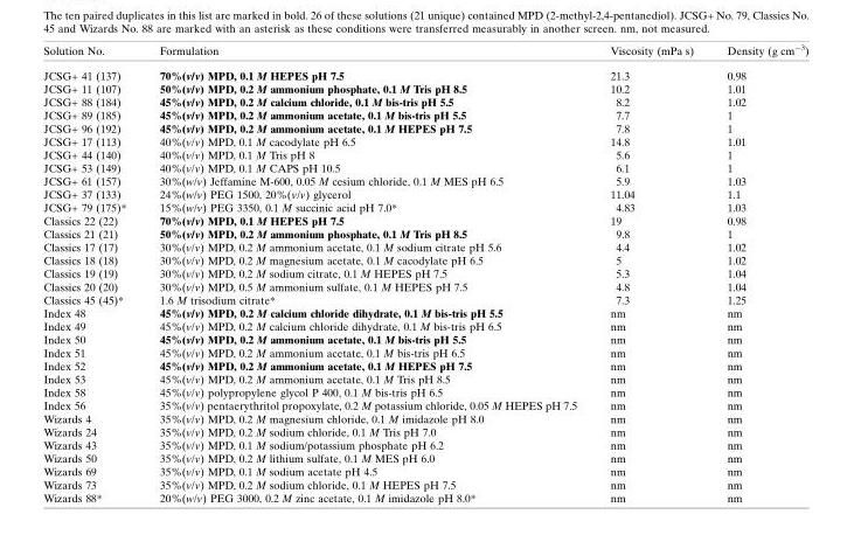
<table><thead><tr><td>Solution No.</td><td>Formulation</td><td>Viscosity (mPa s)</td><td>Density (g cm<sup>−3</sup>)</td></tr></thead><tbody><tr><td>JCSG+ 41 (137)</td><td>70%(v/v) MPD, 0.1 M HEPES pH 7.5</td><td>21.3</td><td>0.98</td></tr><tr><td>JCSG+ 11 (107)</td><td>50%(v/v) MPD, 0.2 M ammonium phosphate, 0.1 M Tris pH 8.5</td><td>10.2</td><td>1.01</td></tr><tr><td>JCSG+ 88 (184)</td><td>45%(v/v) MPD, 0.2 M calcium chloride, 0.1 M bis-tris pH 5.5</td><td>8.2</td><td>1.02</td></tr><tr><td>JCSG+ 89 (185)</td><td>45%(v/v) MPD, 0.2 M ammonium acetate, 0.1 M bis-tris pH 5.5</td><td>7.7</td><td>1</td></tr><tr><td>JCSG+ 96 (192)</td><td>45%(v/v) MPD, 0.2 M ammonium acetate, 0.1 M HEPES pH 7.5</td><td>7.8</td><td>1</td></tr><tr><td>JCSG+ 17 (113)</td><td>40%(v/v) MPD, 0.1 M cacodylate pH 6.5</td><td>14.8</td><td>1.01</td></tr><tr><td>JCSG+ 44 (140)</td><td>40%(v/v) MPD, 0.1 M Tris pH 8</td><td>5.6</td><td>1</td></tr><tr><td>JCSG+ 53 (149)</td><td>40%(v/v) MPD, 0.1 M CAPS pH 10.5</td><td>6.1</td><td>1</td></tr><tr><td>JCSG+ 61 (157)</td><td>30%(w/v) Jeffamine M-600, 0.05 M cesium chloride, 0.1 M MES pH 6.5</td><td>5.9</td><td>1.03</td></tr><tr><td>JCSG+ 37 (133)</td><td>24%(w/v) PEG 1500, 20%(v/v) glycerol</td><td>11.04</td><td>1.1</td></tr><tr><td>JCSG+ 79 (175)*</td><td>15%(w/v) PEG 3350, 0.1 M succinic acid pH 7.0*</td><td>4.83</td><td>1.03</td></tr><tr><td>Classics 22 (22)</td><td>70%(v/v) MPD, 0.1 M HEPES pH 7.5</td><td>19</td><td>0.98</td></tr><tr><td>Classics 21 (21)</td><td>50%(v/v) MPD, 0.2 M ammonium phosphate, 0.1 M Tris pH 8.5</td><td>9.8</td><td>1</td></tr><tr><td>Classics 17 (17)</td><td>30%(v/v) MPD, 0.2 M ammonium acetate, 0.1 M sodium citrate pH 5.6</td><td>4.4</td><td>1.02</td></tr><tr><td>Classics 18 (18)</td><td>30%(v/v) MPD, 0.2 M magnesium acetate, 0.1 M cacodylate pH 6.5</td><td>5</td><td>1.02</td></tr><tr><td>Classics 19 (19)</td><td>30%(v/v) MPD, 0.2 M sodium citrate, 0.1 M HEPES pH 7.5</td><td>5.3</td><td>1.04</td></tr><tr><td>Classics 20 (20)</td><td>30%(v/v) MPD, 0.5 M ammonium sulfate, 0.1 M HEPES pH 7.5</td><td>4.8</td><td>1.04</td></tr><tr><td>Classics 45 (45)*</td><td>1.6 M trisodium citrate*</td><td>7.3</td><td>1.25</td></tr><tr><td>Index 48</td><td>45%(v/v) MPD, 0.2 M calcium chloride dihydrate, 0.1 M bis-tris pH 5.5</td><td>nm</td><td>nm</td></tr><tr><td>Index 49</td><td>45%(v/v) MPD, 0.2 M calcium chloride dihydrate, 0.1 M bis-tris pH 6.5</td><td>nm</td><td>nm</td></tr><tr><td>Index 50</td><td>45%(v/v) MPD, 0.2 M ammonium acetate, 0.1 M bis-tris pH 5.5</td><td>nm</td><td>nm</td></tr><tr><td>Index 51</td><td>45%(v/v) MPD, 0.2 M ammonium acetate, 0.1 M bis-tris pH 6.5</td><td>nm</td><td>nm</td></tr><tr><td>Index 52</td><td>45%(v/v) MPD, 0.2 M ammonium acetate, 0.1 M HEPES pH 7.5</td><td>nm</td><td>nm</td></tr><tr><td>Index 53</td><td>45%(v/v) MPD, 0.2 M ammonium acetate, 0.1 M Tris pH 8.5</td><td>nm</td><td>nm</td></tr><tr><td>Index 58</td><td>45%(v/v) polypropylene glycol P 400, 0.1 M bis-tris pH 6.5</td><td>nm</td><td>nm</td></tr><tr><td>Index 56</td><td>35%(v/v) pentaerythritol propoxylate, 0.2 M potassium chloride, 0.05 M HEPES pH 7.5</td><td>nm</td><td>nm</td></tr><tr><td>Wizards 4</td><td>35%(v/v) MPD, 0.2 M magnesium chloride, 0.1 M imidazole pH 8.0</td><td>nm</td><td>nm</td></tr><tr><td>Wizards 24</td><td>35%(v/v) MPD, 0.2 M sodium chloride, 0.1 M Tris pH 7.0</td><td>nm</td><td>nm</td></tr><tr><td>Wizards 43</td><td>35%(v/v) MPD, 0.1 M sodium/potassium phosphate pH 6.2</td><td>nm</td><td>nm</td></tr><tr><td>Wizards 50</td><td>35%(v/v) MPD, 0.2 M lithium sulfate, 0.1 M MES pH 6.0</td><td>nm</td><td>nm</td></tr><tr><td>Wizards 69</td><td>35%(v/v) MPD, 0.1 M sodium acetate pH 4.5</td><td>nm</td><td>nm</td></tr><tr><td>Wizards 73</td><td>35%(v/v) MPD, 0.2 M sodium chloride, 0.1 M HEPES pH 7.5</td><td>nm</td><td>nm</td></tr><tr><td>Wizards 88*</td><td>20%(w/v) PEG 3000, 0.2 M zinc acetate, 0.1 M imidazole pH 8.0*</td><td>nm</td><td>nm</td></tr></tbody></table>